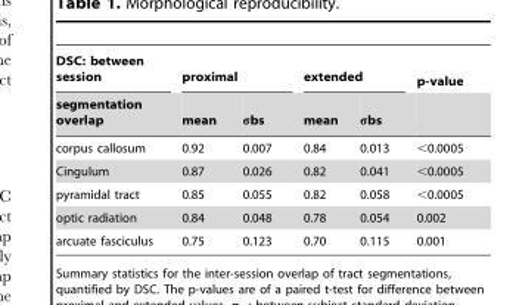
<table><thead><tr><td rowspan="2">DSC: between session segmentation overlap</td><td colspan="2">proximal</td><td colspan="2">extended</td><td rowspan="2">p-value</td></tr><tr><td>mean</td><td>σbs</td><td>mean</td><td>σbs</td></tr></thead><tbody><tr><td>corpus callosum</td><td>0.92</td><td>0.007</td><td>0.84</td><td>0.013</td><td>&lt;0.0005</td></tr><tr><td>Cingulum</td><td>0.87</td><td>0.026</td><td>0.82</td><td>0.041</td><td>&lt;0.0005</td></tr><tr><td>pyramidal tract</td><td>0.85</td><td>0.055</td><td>0.82</td><td>0.058</td><td>&lt;0.0005</td></tr><tr><td>optic radiation</td><td>0.84</td><td>0.048</td><td>0.78</td><td>0.054</td><td>0.002</td></tr><tr><td>arcuate fasciculus</td><td>0.75</td><td>0.123</td><td>0.70</td><td>0.115</td><td>0.001</td></tr></tbody></table>